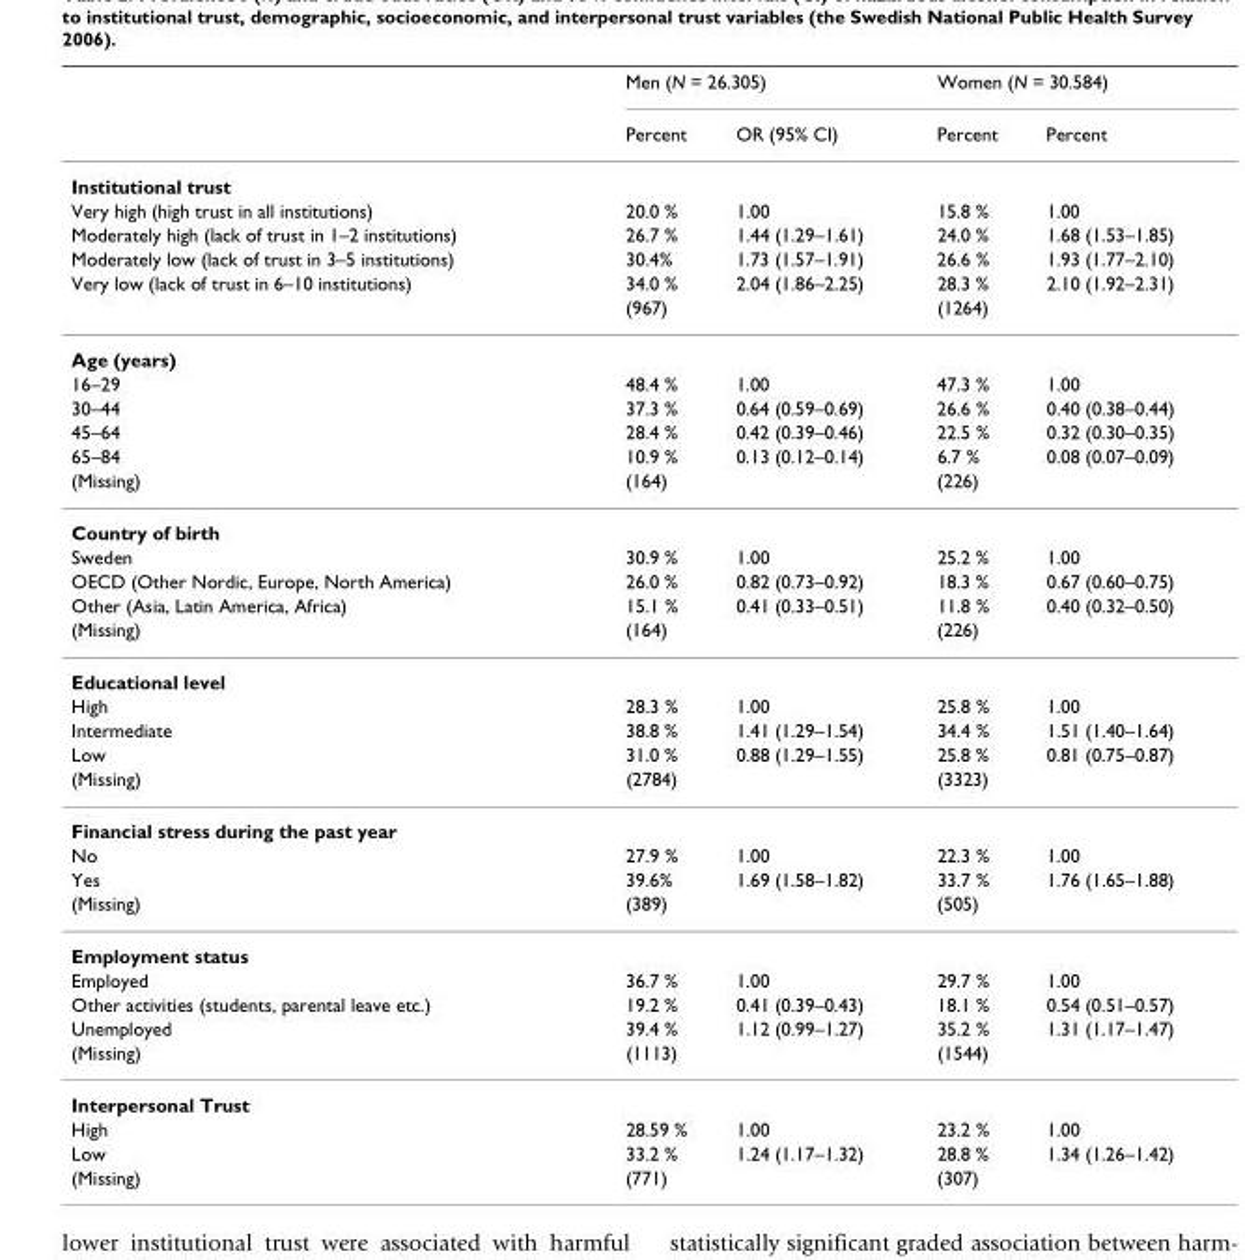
<table><thead><tr><td rowspan="2"></td><td colspan="2">Men (N = 26.305)</td><td colspan="2">Women (N = 30.584)</td></tr><tr><td>Percent</td><td>OR (95% CI)</td><td>Percent</td><td>Percent</td></tr></thead><tbody><tr><td colspan="5">Institutional trust</td></tr><tr><td>Very high (high trust in all institutions)</td><td>20.0 %</td><td>1.00</td><td>15.8 %</td><td>1.00</td></tr><tr><td>Moderately high (lack of trust in 1–2 institutions)</td><td>26.7 %</td><td>1.44 (1.29–1.61)</td><td>24.0 %</td><td>1.68 (1.53–1.85)</td></tr><tr><td>Moderately low (lack of trust in 3–5 institutions)</td><td>30.4%</td><td>1.73 (1.57–1.91)</td><td>26.6 %</td><td>1.93 (1.77–2.10)</td></tr><tr><td rowspan="2">Very low (lack of trust in 6–10 institutions)</td><td>34.0 %</td><td>2.04 (1.86–2.25)</td><td>28.3 %</td><td>2.10 (1.92–2.31)</td></tr><tr><td>(967)</td><td></td><td>(1264)</td><td></td></tr><tr><td colspan="5">Age (years)</td></tr><tr><td>16–29</td><td>48.4 %</td><td>1.00</td><td>47.3 %</td><td>1.00</td></tr><tr><td>30–44</td><td>37.3 %</td><td>0.64 (0.59–0.69)</td><td>26.6 %</td><td>0.40 (0.38–0.44)</td></tr><tr><td>45–64</td><td>28.4 %</td><td>0.42 (0.39–0.46)</td><td>22.5 %</td><td>0.32 (0.30–0.35)</td></tr><tr><td>65–84</td><td>10.9 %</td><td>0.13 (0.12–0.14)</td><td>6.7 %</td><td>0.08 (0.07–0.09)</td></tr><tr><td>(Missing)</td><td>(164)</td><td></td><td>(226)</td><td></td></tr><tr><td colspan="5">Country of birth</td></tr><tr><td>Sweden</td><td>30.9 %</td><td>1.00</td><td>25.2 %</td><td>1.00</td></tr><tr><td>OECD (Other Nordic, Europe, North America)</td><td>26.0 %</td><td>0.82 (0.73–0.92)</td><td>18.3 %</td><td>0.67 (0.60–0.75)</td></tr><tr><td>Other (Asia, Latin America, Africa)</td><td>15.1 %</td><td>0.41 (0.33–0.51)</td><td>11.8 %</td><td>0.40 (0.32–0.50)</td></tr><tr><td>(Missing)</td><td>(164)</td><td></td><td>(226)</td><td></td></tr><tr><td colspan="5">Educational level</td></tr><tr><td>High</td><td>28.3 %</td><td>1.00</td><td>25.8 %</td><td>1.00</td></tr><tr><td>Intermediate</td><td>38.8 %</td><td>1.41 (1.29–1.54)</td><td>34.4 %</td><td>1.51 (1.40–1.64)</td></tr><tr><td>Low</td><td>31.0 %</td><td>0.88 (1.29–1.55)</td><td>25.8 %</td><td>0.81 (0.75–0.87)</td></tr><tr><td>(Missing)</td><td>(2784)</td><td></td><td>(3323)</td><td></td></tr><tr><td colspan="5">Financial stress during the past year</td></tr><tr><td>No</td><td>27.9 %</td><td>1.00</td><td>22.3 %</td><td>1.00</td></tr><tr><td>Yes</td><td>39.6%</td><td>1.69 (1.58–1.82)</td><td>33.7 %</td><td>1.76 (1.65–1.88)</td></tr><tr><td>(Missing)</td><td>(389)</td><td></td><td>(505)</td><td></td></tr><tr><td colspan="5">Employment status</td></tr><tr><td>Employed</td><td>36.7 %</td><td>1.00</td><td>29.7 %</td><td>1.00</td></tr><tr><td>Other activities (students, parental leave etc.)</td><td>19.2 %</td><td>0.41 (0.39–0.43)</td><td>18.1 %</td><td>0.54 (0.51–0.57)</td></tr><tr><td>Unemployed</td><td>39.4 %</td><td>1.12 (0.99–1.27)</td><td>35.2 %</td><td>1.31 (1.17–1.47)</td></tr><tr><td>(Missing)</td><td>(1113)</td><td></td><td>(1544)</td><td></td></tr><tr><td colspan="5">Interpersonal Trust</td></tr><tr><td>High</td><td>28.59 %</td><td>1.00</td><td>23.2 %</td><td>1.00</td></tr><tr><td>Low</td><td>33.2 %</td><td>1.24 (1.17–1.32)</td><td>28.8 %</td><td>1.34 (1.26–1.42)</td></tr><tr><td>(Missing)</td><td>(771)</td><td></td><td>(307)</td><td></td></tr></tbody></table>